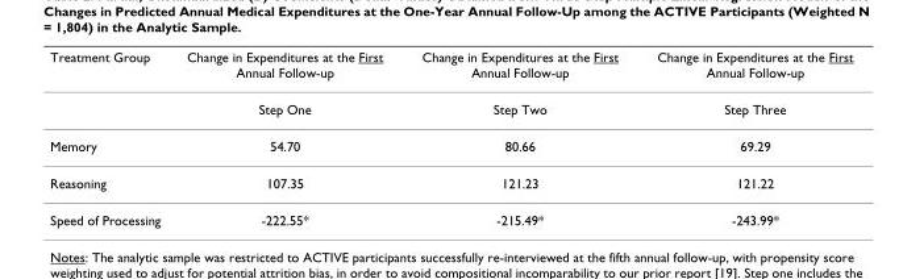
<table><thead><tr><td>Treatment Group</td><td>Change in Expenditures at the First Annual Follow-up</td><td>Change in Expenditures at the First Annual Follow-up</td><td>Change in Expenditures at the First Annual Follow-up</td></tr></thead><tbody><tr><td></td><td>Step One</td><td>Step Two</td><td>Step Three</td></tr><tr><td>Memory</td><td>54.70</td><td>80.66</td><td>69.29</td></tr><tr><td>Reasoning</td><td>107.35</td><td>121.23</td><td>121.22</td></tr><tr><td>Speed of Processing</td><td>-222.55*</td><td>-215.49*</td><td>-243.99*</td></tr></tbody></table>